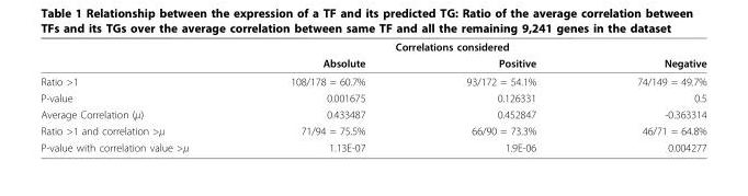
<table><thead><tr><td rowspan="2"></td><td colspan="3">Correlations considered</td></tr><tr><td>Absolute</td><td>Positive</td><td>Negative</td></tr></thead><tbody><tr><td>Ratio &gt;1</td><td>108/178 = 60.7%</td><td>93/172 = 54.1%</td><td>74/149 = 49.7%</td></tr><tr><td>P-value</td><td>0.001675</td><td>0.126331</td><td>0.5</td></tr><tr><td>Average Correlation (μ)</td><td>0.433487</td><td>0.452847</td><td>-0.363314</td></tr><tr><td>Ratio &gt;1 and correlation &gt;μ</td><td>71/94 = 75.5%</td><td>66/90 = 73.3%</td><td>46/71 = 64.8%</td></tr><tr><td>P-value with correlation value &gt;μ</td><td>1.13E-07</td><td>1.9E-06</td><td>0.004277</td></tr></tbody></table>